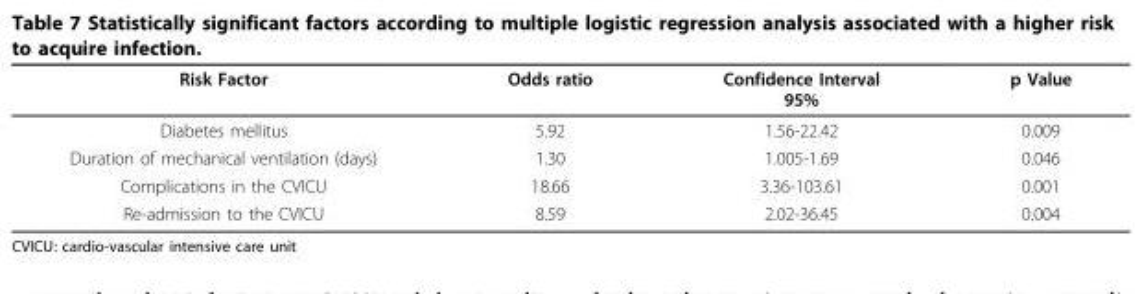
<table><thead><tr><td>Risk Factor</td><td>Odds ratio</td><td>Confidence Interval 95%</td><td>p Value</td></tr></thead><tbody><tr><td>Diabetes mellitus</td><td>5.92</td><td>1.56-22.42</td><td>0.009</td></tr><tr><td>Duration of mechanical ventilation (days)</td><td>1.30</td><td>1.005-1.69</td><td>0.046</td></tr><tr><td>Complications in the CVICU</td><td>18.66</td><td>3.36-103.61</td><td>0.001</td></tr><tr><td>Re-admission to the CVICU</td><td>8.59</td><td>2.02-36.45</td><td>0.004</td></tr></tbody></table>